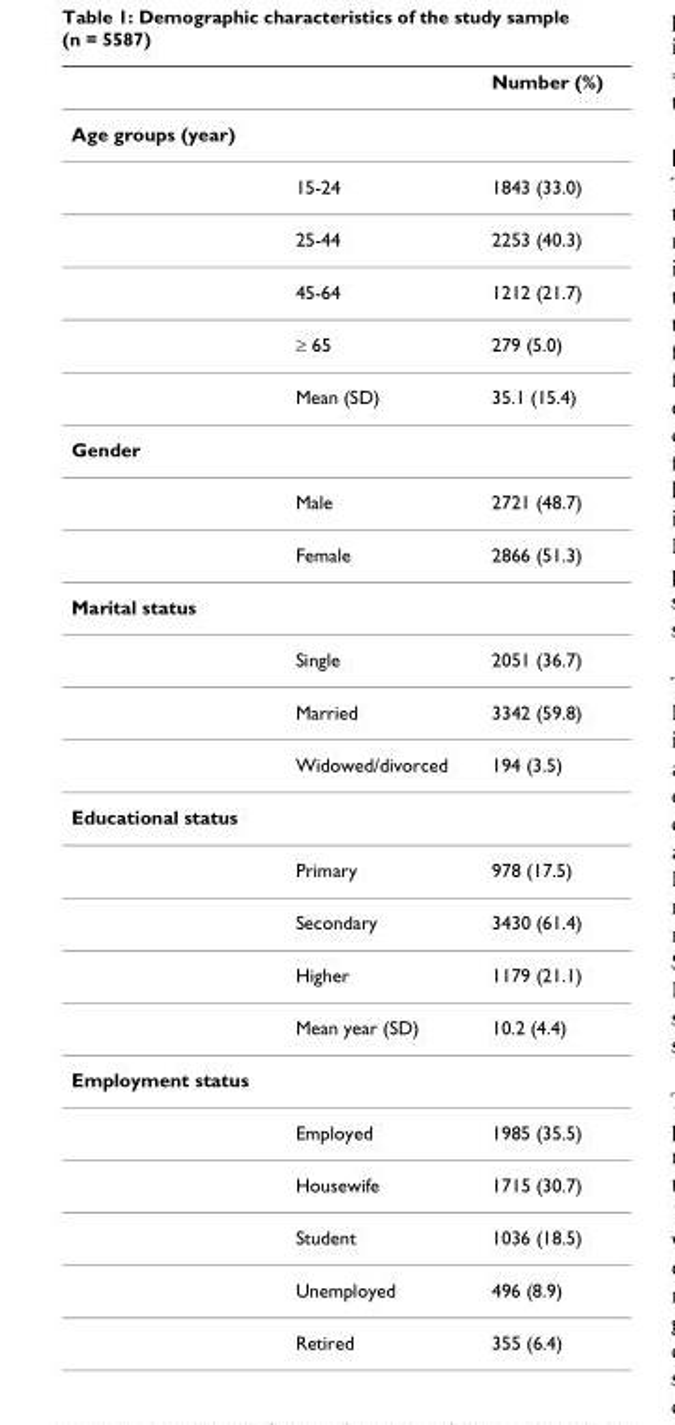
<table><thead><tr><td></td><td></td><td>Number (%)</td></tr></thead><tbody><tr><td colspan="3">Age groups (year)</td></tr><tr><td></td><td>15-24</td><td>1843 (33.0)</td></tr><tr><td></td><td>25-44</td><td>2253 (40.3)</td></tr><tr><td></td><td>45-64</td><td>1212 (21.7)</td></tr><tr><td></td><td>≥ 65</td><td>279 (5.0)</td></tr><tr><td></td><td>Mean (SD)</td><td>35.1 (15.4)</td></tr><tr><td colspan="3">Gender</td></tr><tr><td></td><td>Male</td><td>2721 (48.7)</td></tr><tr><td></td><td>Female</td><td>2866 (51.3)</td></tr><tr><td colspan="3">Marital status</td></tr><tr><td></td><td>Single</td><td>2051 (36.7)</td></tr><tr><td></td><td>Married</td><td>3342 (59.8)</td></tr><tr><td></td><td>Widowed/divorced</td><td>194 (3.5)</td></tr><tr><td colspan="3">Educational status</td></tr><tr><td></td><td>Primary</td><td>978 (17.5)</td></tr><tr><td></td><td>Secondary</td><td>3430 (61.4)</td></tr><tr><td></td><td>Higher</td><td>1179 (21.1)</td></tr><tr><td></td><td>Mean year (SD)</td><td>10.2 (4.4)</td></tr><tr><td colspan="3">Employment status</td></tr><tr><td></td><td>Employed</td><td>1985 (35.5)</td></tr><tr><td></td><td>Housewife</td><td>1715 (30.7)</td></tr><tr><td></td><td>Student</td><td>1036 (18.5)</td></tr><tr><td></td><td>Unemployed</td><td>496 (8.9)</td></tr><tr><td></td><td>Retired</td><td>355 (6.4)</td></tr></tbody></table>